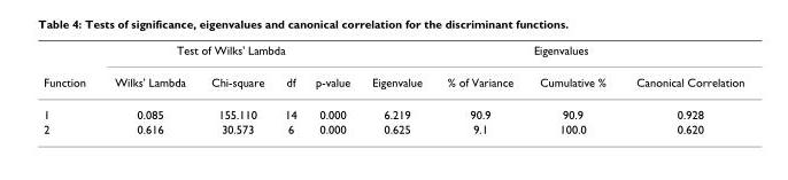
<table><thead><tr><td rowspan="2">Function</td><td colspan="4">Test of Wilks&#x27; Lambda</td><td colspan="4">Eigenvalues</td></tr><tr><td>Wilks&#x27; Lambda</td><td>Chi-square</td><td>df</td><td>p-value</td><td>Eigenvalue</td><td>% of Variance</td><td>Cumulative %</td><td>Canonical Correlation</td></tr></thead><tbody><tr><td>1</td><td>0.085</td><td>155.110</td><td>14</td><td>0.000</td><td>6.219</td><td>90.9</td><td>90.9</td><td>0.928</td></tr><tr><td>2</td><td>0.616</td><td>30.573</td><td>6</td><td>0.000</td><td>0.625</td><td>9.1</td><td>100.0</td><td>0.620</td></tr></tbody></table>